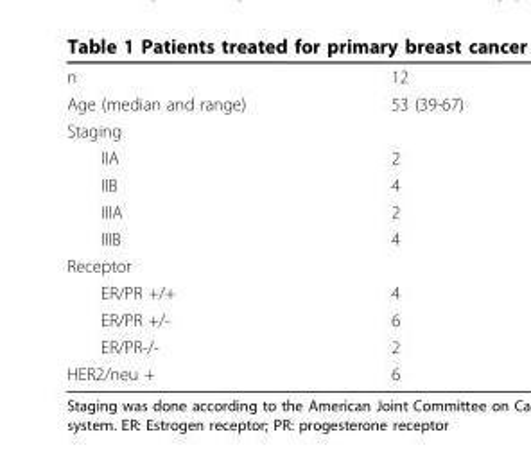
<table><tbody><tr><td>n</td><td>12</td></tr><tr><td>Age (median and range)</td><td>53 (39-67)</td></tr><tr><td colspan="2">Staging</td></tr><tr><td>IIA</td><td>2</td></tr><tr><td>IIB</td><td>4</td></tr><tr><td>IIIA</td><td>2</td></tr><tr><td>IIIB</td><td>4</td></tr><tr><td colspan="2">Receptor</td></tr><tr><td>ER/PR +/+</td><td>4</td></tr><tr><td>ER/PR +/-</td><td>6</td></tr><tr><td>ER/PR-/-</td><td>2</td></tr><tr><td>HER2/neu +</td><td>6</td></tr></tbody></table>